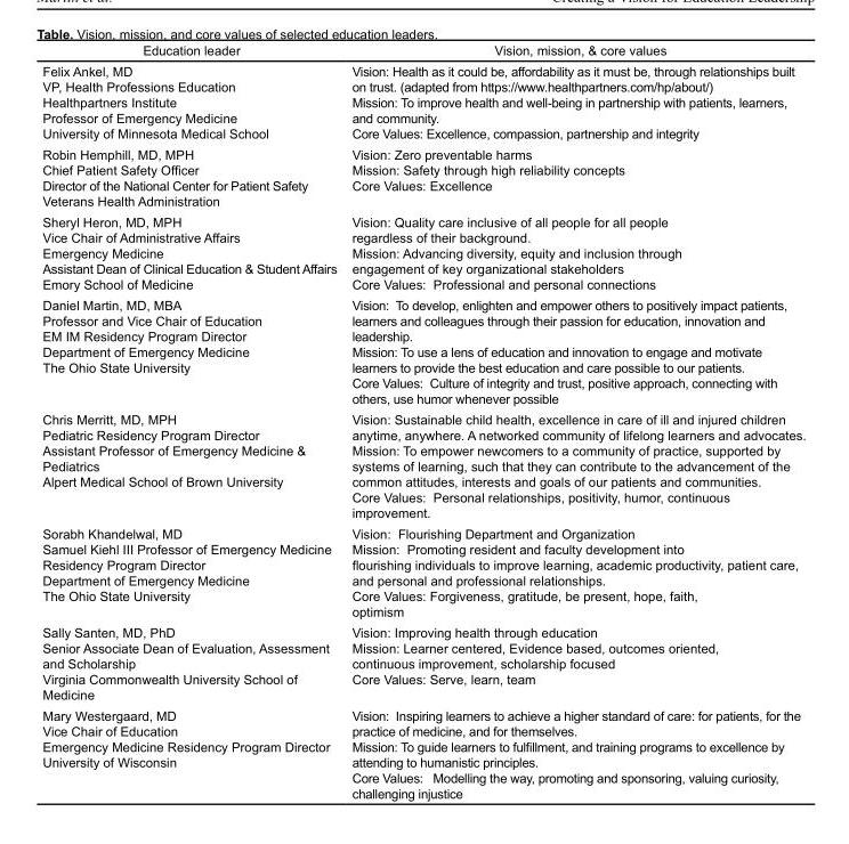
<table><thead><tr><td>Education leader</td><td>Vision, mission, &amp; core values</td></tr></thead><tbody><tr><td>Felix Ankel, MD VP, Health Professions Education Healthpartners Institute Professor of Emergency Medicine University of Minnesota Medical School</td><td>Vision: Health as it could be, affordability as it must be, through relationships built on trust. (adapted from https://www.healthpartners.com/hp/about/) Mission: To improve health and well-being in partnership with patients, learners, and community. Core Values: Excellence, compassion, partnership and integrity</td></tr><tr><td>Robin Hemphill, MD, MPH Chief Patient Safety Officer Director of the National Center for Patient Safety Veterans Health Administration</td><td>Vision: Zero preventable harms Mission: Safety through high reliability concepts Core Values: Excellence</td></tr><tr><td>Sheryl Heron, MD, MPH Vice Chair of Administrative Affairs Emergency Medicine Assistant Dean of Clinical Education &amp; Student Affairs Emory School of Medicine</td><td>Vision: Quality care inclusive of all people for all people regardless of their background. Mission: Advancing diversity, equity and inclusion through engagement of key organizational stakeholders Core Values: Professional and personal connections</td></tr><tr><td>Daniel Martin, MD, MBA Professor and Vice Chair of Education EM IM Residency Program Director Department of Emergency Medicine The Ohio State University</td><td>Vision: To develop, enlighten and empower others to positively impact patients, learners and colleagues through their passion for education, innovation and leadership. Mission: To use a lens of education and innovation to engage and motivate learners to provide the best education and care possible to our patients. Core Values: Culture of integrity and trust, positive approach, connecting with others, use humor whenever possible</td></tr><tr><td>Chris Merritt, MD, MPH Pediatric Residency Program Director Assistant Professor of Emergency Medicine &amp; Pediatrics Alpert Medical School of Brown University</td><td>Vision: Sustainable child health, excellence in care of ill and injured children anytime, anywhere. A networked community of lifelong learners and advocates. Mission: To empower newcomers to a community of practice, supported by systems of learning, such that they can contribute to the advancement of the common attitudes, interests and goals of our patients and communities. Core Values: Personal relationships, positivity, humor, continuous improvement.</td></tr><tr><td>Sorabh Khandelwal, MD Samuel Kiehl III Professor of Emergency Medicine Residency Program Director Department of Emergency Medicine The Ohio State University</td><td>Vision: Flourishing Department and Organization Mission: Promoting resident and faculty development into flourishing individuals to improve learning, academic productivity, patient care, and personal and professional relationships. Core Values: Forgiveness, gratitude, be present, hope, faith, optimism</td></tr><tr><td>Sally Santen, MD, PhD Senior Associate Dean of Evaluation, Assessment and Scholarship Virginia Commonwealth University School of Medicine</td><td>Vision: Improving health through education Mission: Learner centered, Evidence based, outcomes oriented, continuous improvement, scholarship focused Core Values: Serve, learn, team</td></tr><tr><td>Mary Westergaard, MD Vice Chair of Education Emergency Medicine Residency Program Director University of Wisconsin</td><td>Vision: Inspiring learners to achieve a higher standard of care: for patients, for the practice of medicine, and for themselves. Mission: To guide learners to fulfillment, and training programs to excellence by attending to humanistic principles. Core Values: Modelling the way, promoting and sponsoring, valuing curiosity, challenging injustice</td></tr></tbody></table>